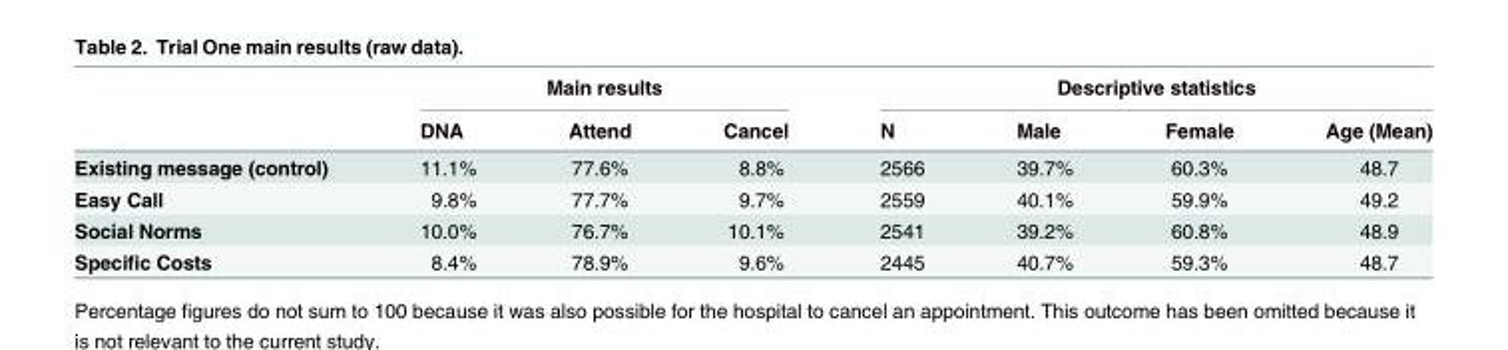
<table><thead><tr><td rowspan="2"></td><td colspan="3">Main results</td><td colspan="4">Descriptive statistics</td></tr><tr><td>DNA</td><td>Attend</td><td>Cancel</td><td>N</td><td>Male</td><td>Female</td><td>Age (Mean)</td></tr></thead><tbody><tr><td>Existing message (control)</td><td>11.1%</td><td>77.6%</td><td>8.8%</td><td>2566</td><td>39.7%</td><td>60.3%</td><td>48.7</td></tr><tr><td>Easy Call</td><td>9.8%</td><td>77.7%</td><td>9.7%</td><td>2559</td><td>40.1%</td><td>59.9%</td><td>49.2</td></tr><tr><td>Social Norms</td><td>10.0%</td><td>76.7%</td><td>10.1%</td><td>2541</td><td>39.2%</td><td>60.8%</td><td>48.9</td></tr><tr><td>Specific Costs</td><td>8.4%</td><td>78.9%</td><td>9.6%</td><td>2445</td><td>40.7%</td><td>59.3%</td><td>48.7</td></tr></tbody></table>